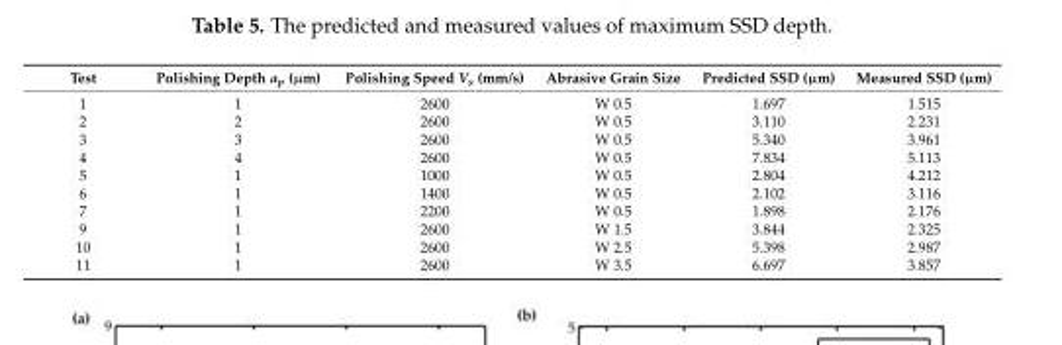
<table><thead><tr><td>Test</td><td>Polishing Depth a<sub>p</sub> (µm)</td><td>Polishing Speed V<sub>s</sub> (mm/s)</td><td>Abrasive Grain Size</td><td>Predicted SSD (µm)</td><td>Measured SSD (µm)</td></tr></thead><tbody><tr><td>1</td><td>1</td><td>2600</td><td>W 0.5</td><td>1.697</td><td>1.515</td></tr><tr><td>2</td><td>2</td><td>2600</td><td>W 0.5</td><td>3.110</td><td>2.231</td></tr><tr><td>3</td><td>3</td><td>2600</td><td>W 0.5</td><td>5.340</td><td>3.961</td></tr><tr><td>4</td><td>4</td><td>2600</td><td>W 0.5</td><td>7.834</td><td>5.113</td></tr><tr><td>5</td><td>1</td><td>1000</td><td>W 0.5</td><td>2.804</td><td>4.212</td></tr><tr><td>6</td><td>1</td><td>1400</td><td>W 0.5</td><td>2.102</td><td>3.116</td></tr><tr><td>7</td><td>1</td><td>2200</td><td>W 0.5</td><td>1.898</td><td>2.176</td></tr><tr><td>9</td><td>1</td><td>2600</td><td>W 1.5</td><td>3.844</td><td>2.325</td></tr><tr><td>10</td><td>1</td><td>2600</td><td>W 2.5</td><td>5.398</td><td>2.987</td></tr><tr><td>11</td><td>1</td><td>2600</td><td>W 3.5</td><td>6.697</td><td>3.857</td></tr></tbody></table>